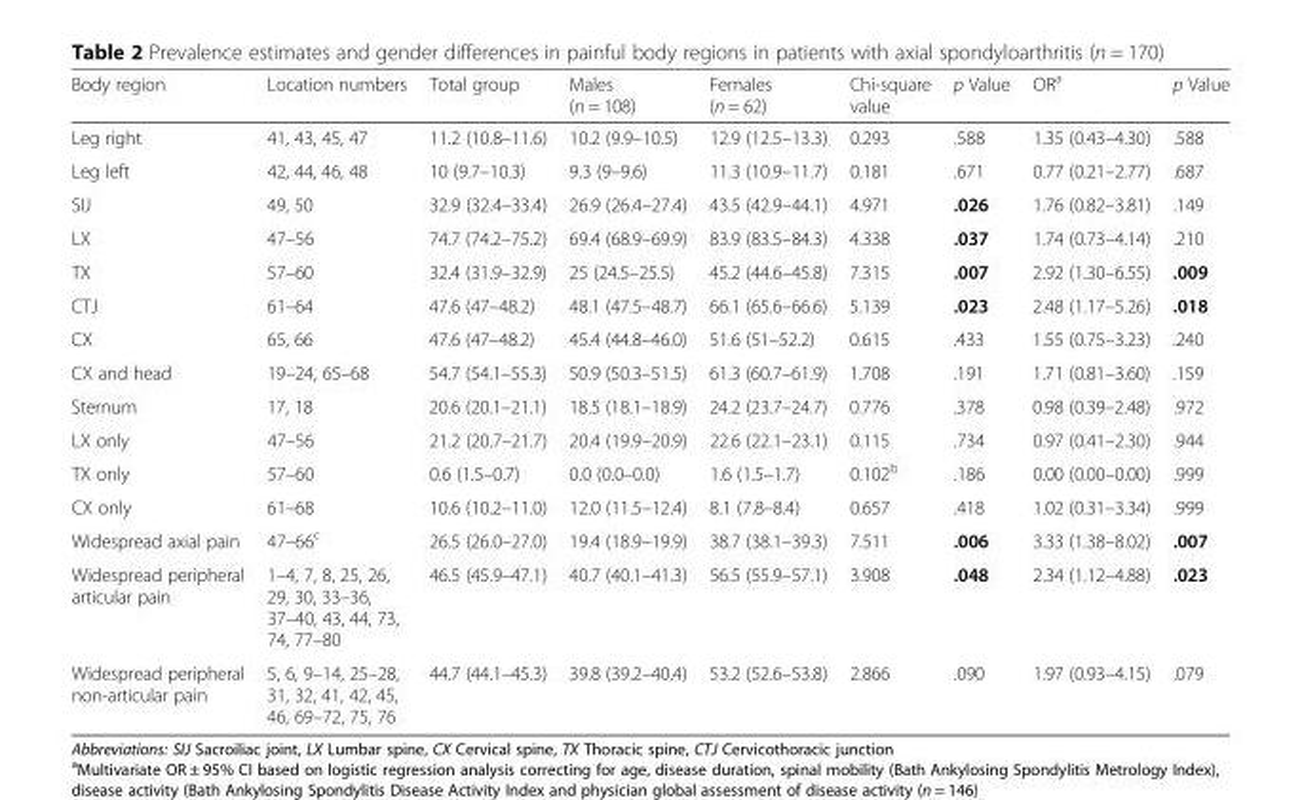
<table><thead><tr><td>Body region</td><td>Location numbers</td><td>Total group</td><td>Males (n = 108)</td><td>Females (n = 62)</td><td>Chi-square value</td><td>p Value</td><td>OR<sup>a</sup></td><td>p Value</td></tr></thead><tbody><tr><td>Leg right</td><td>41, 43, 45, 47</td><td>11.2 (10.8–11.6)</td><td>10.2 (9.9–10.5)</td><td>12.9 (12.5–13.3)</td><td>0.293</td><td>.588</td><td>1.35 (0.43–4.30)</td><td>.588</td></tr><tr><td>Leg left</td><td>42, 44, 46, 48</td><td>10 (9.7–10.3)</td><td>9.3 (9–9.6)</td><td>11.3 (10.9–11.7)</td><td>0.181</td><td>.671</td><td>0.77 (0.21–2.77)</td><td>.687</td></tr><tr><td>SIJ</td><td>49, 50</td><td>32.9 (32.4–33.4)</td><td>26.9 (26.4–27.4)</td><td>43.5 (42.9–44.1)</td><td>4.971</td><td>.026</td><td>1.76 (0.82–3.81)</td><td>.149</td></tr><tr><td>LX</td><td>47–56</td><td>74.7 (74.2–75.2)</td><td>69.4 (68.9–69.9)</td><td>83.9 (83.5–84.3)</td><td>4.338</td><td>.037</td><td>1.74 (0.73–4.14)</td><td>.210</td></tr><tr><td>TX</td><td>57–60</td><td>32.4 (31.9–32.9)</td><td>25 (24.5–25.5)</td><td>45.2 (44.6–45.8)</td><td>7.315</td><td>.007</td><td>2.92 (1.30–6.55)</td><td>.009</td></tr><tr><td>CTJ</td><td>61–64</td><td>47.6 (47–48.2)</td><td>48.1 (47.5–48.7)</td><td>66.1 (65.6–66.6)</td><td>5.139</td><td>.023</td><td>2.48 (1.17–5.26)</td><td>.018</td></tr><tr><td>CX</td><td>65, 66</td><td>47.6 (47–48.2)</td><td>45.4 (44.8–46.0)</td><td>51.6 (51–52.2)</td><td>0.615</td><td>.433</td><td>1.55 (0.75–3.23)</td><td>.240</td></tr><tr><td>CX and head</td><td>19–24, 65–68</td><td>54.7 (54.1–55.3)</td><td>50.9 (50.3–51.5)</td><td>61.3 (60.7–61.9)</td><td>1.708</td><td>.191</td><td>1.71 (0.81–3.60)</td><td>.159</td></tr><tr><td>Sternum</td><td>17, 18</td><td>20.6 (20.1–21.1)</td><td>18.5 (18.1–18.9)</td><td>24.2 (23.7–24.7)</td><td>0.776</td><td>.378</td><td>0.98 (0.39–2.48)</td><td>.972</td></tr><tr><td>LX only</td><td>47–56</td><td>21.2 (20.7–21.7)</td><td>20.4 (19.9–20.9)</td><td>22.6 (22.1–23.1)</td><td>0.115</td><td>.734</td><td>0.97 (0.41–2.30)</td><td>.944</td></tr><tr><td>TX only</td><td>57–60</td><td>0.6 (1.5–0.7)</td><td>0.0 (0.0–0.0)</td><td>1.6 (1.5–1.7)</td><td>0.102<sup>b</sup></td><td>.186</td><td>0.00 (0.00–0.00)</td><td>.999</td></tr><tr><td>CX only</td><td>61–68</td><td>10.6 (10.2–11.0)</td><td>12.0 (11.5–12.4)</td><td>8.1 (7.8–8.4)</td><td>0.657</td><td>.418</td><td>1.02 (0.31–3.34)</td><td>.999</td></tr><tr><td>Widespread axial pain</td><td>47–66<sup>c</sup></td><td>26.5 (26.0–27.0)</td><td>19.4 (18.9–19.9)</td><td>38.7 (38.1–39.3)</td><td>7.511</td><td>.006</td><td>3.33 (1.38–8.02)</td><td>.007</td></tr><tr><td>Widespread peripheral articular pain</td><td>1–4, 7, 8, 25, 26, 29, 30, 33–36, 37–40, 43, 44, 73, 74, 77–80</td><td>46.5 (45.9–47.1)</td><td>40.7 (40.1–41.3)</td><td>56.5 (55.9–57.1)</td><td>3.908</td><td>.048</td><td>2.34 (1.12–4.88)</td><td>.023</td></tr><tr><td>Widespread peripheral non-articular pain</td><td>5, 6, 9–14, 25–28, 31, 32, 41, 42, 45, 46, 69–72, 75, 76</td><td>44.7 (44.1–45.3)</td><td>39.8 (39.2–40.4)</td><td>53.2 (52.6–53.8)</td><td>2.866</td><td>.090</td><td>1.97 (0.93–4.15)</td><td>.079</td></tr></tbody></table>